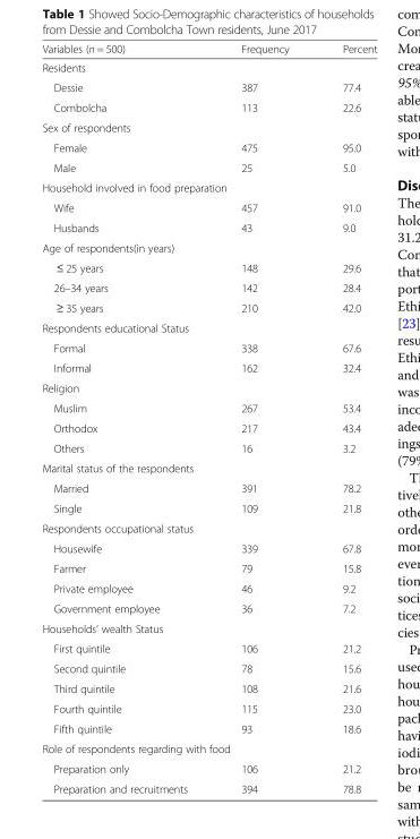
<table><thead><tr><td>Variables (n = 500)</td><td>Frequency</td><td>Percent</td></tr></thead><tbody><tr><td colspan="3">Residents</td></tr><tr><td>Dessie</td><td>387</td><td>77.4</td></tr><tr><td>Combolcha</td><td>113</td><td>22.6</td></tr><tr><td colspan="3">Sex of respondents</td></tr><tr><td>Female</td><td>475</td><td>95.0</td></tr><tr><td>Male</td><td>25</td><td>5.0</td></tr><tr><td colspan="3">Household involved in food preparation</td></tr><tr><td>Wife</td><td>457</td><td>91.0</td></tr><tr><td>Husbands</td><td>43</td><td>9.0</td></tr><tr><td colspan="3">Age of respondents(in years)</td></tr><tr><td>≤ 25 years</td><td>148</td><td>29.6</td></tr><tr><td>26–34 years</td><td>142</td><td>28.4</td></tr><tr><td>≥ 35 years</td><td>210</td><td>42.0</td></tr><tr><td colspan="3">Respondents educational Status</td></tr><tr><td>Formal</td><td>338</td><td>67.6</td></tr><tr><td>Informal</td><td>162</td><td>32.4</td></tr><tr><td colspan="3">Religion</td></tr><tr><td>Muslim</td><td>267</td><td>53.4</td></tr><tr><td>Orthodox</td><td>217</td><td>43.4</td></tr><tr><td>Others</td><td>16</td><td>3.2</td></tr><tr><td colspan="3">Marital status of the respondents</td></tr><tr><td>Married</td><td>391</td><td>78.2</td></tr><tr><td>Single</td><td>109</td><td>21.8</td></tr><tr><td colspan="3">Respondents occupational status</td></tr><tr><td>Housewife</td><td>339</td><td>67.8</td></tr><tr><td>Farmer</td><td>79</td><td>15.8</td></tr><tr><td>Private employee</td><td>46</td><td>9.2</td></tr><tr><td>Government employee</td><td>36</td><td>7.2</td></tr><tr><td colspan="3">Households’ wealth Status</td></tr><tr><td>First quintile</td><td>106</td><td>21.2</td></tr><tr><td>Second quintile</td><td>78</td><td>15.6</td></tr><tr><td>Third quintile</td><td>108</td><td>21.6</td></tr><tr><td>Fourth quintile</td><td>115</td><td>23.0</td></tr><tr><td>Fifth quintile</td><td>93</td><td>18.6</td></tr><tr><td colspan="3">Role of respondents regarding with food</td></tr><tr><td>Preparation only</td><td>106</td><td>21.2</td></tr><tr><td>Preparation and recruitments</td><td>394</td><td>78.8</td></tr></tbody></table>